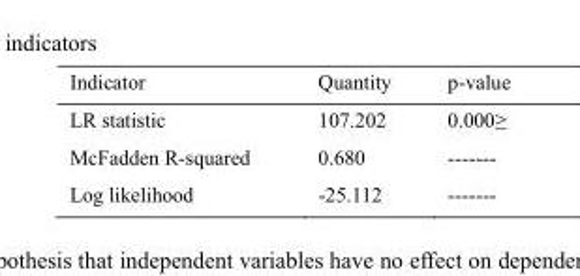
<table><thead><tr><td>Indicator</td><td>Quantity</td><td>p-value</td></tr></thead><tbody><tr><td>LR statistic</td><td>107.202</td><td>0.000≥</td></tr><tr><td>McFadden R-squared</td><td>0.680</td><td>-------</td></tr><tr><td>Log likelihood</td><td>-25.112</td><td>-------</td></tr></tbody></table>